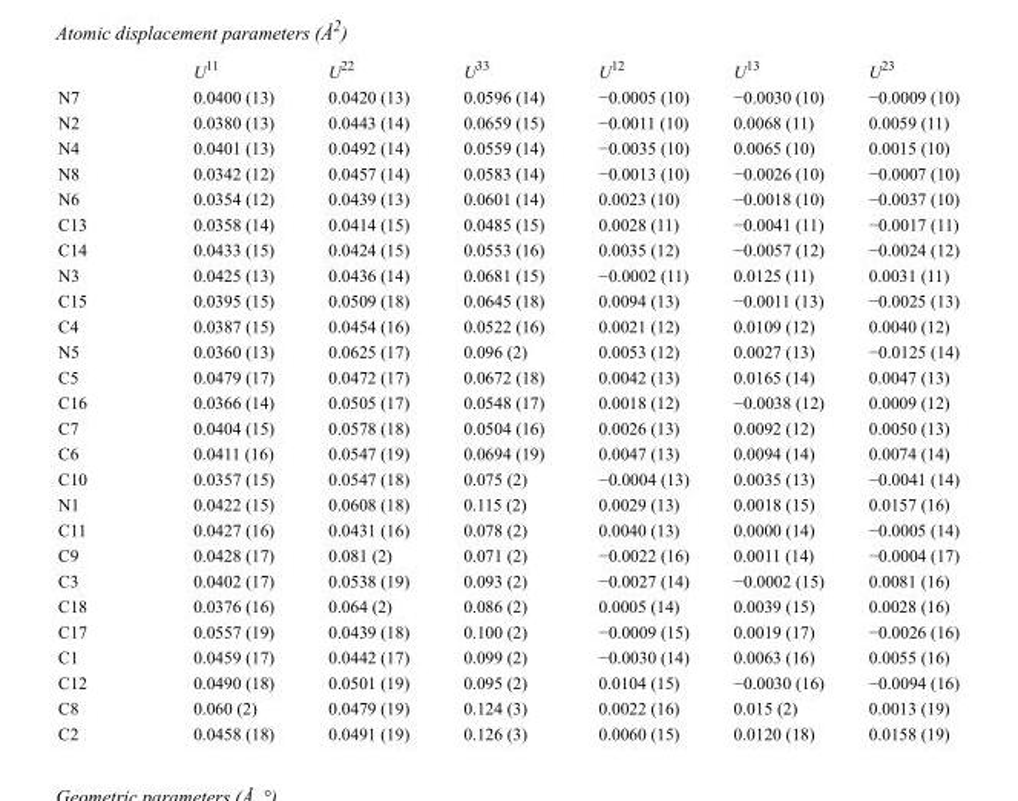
<table><thead><tr><td></td><td>U<sup>11</sup></td><td>U<sup>22</sup></td><td>U<sup>33</sup></td><td>U<sup>12</sup></td><td>U<sup>13</sup></td><td>U<sup>23</sup></td></tr></thead><tbody><tr><td>N7</td><td>0.0400 (13)</td><td>0.0420 (13)</td><td>0.0596 (14)</td><td>−0.0005 (10)</td><td>−0.0030 (10)</td><td>−0.0009 (10)</td></tr><tr><td>N2</td><td>0.0380 (13)</td><td>0.0443 (14)</td><td>0.0659 (15)</td><td>−0.0011 (10)</td><td>0.0068 (11)</td><td>0.0059 (11)</td></tr><tr><td>N4</td><td>0.0401 (13)</td><td>0.0492 (14)</td><td>0.0559 (14)</td><td>−0.0035 (10)</td><td>0.0065 (10)</td><td>0.0015 (10)</td></tr><tr><td>N8</td><td>0.0342 (12)</td><td>0.0457 (14)</td><td>0.0583 (14)</td><td>−0.0013 (10)</td><td>−0.0026 (10)</td><td>−0.0007 (10)</td></tr><tr><td>N6</td><td>0.0354 (12)</td><td>0.0439 (13)</td><td>0.0601 (14)</td><td>0.0023 (10)</td><td>−0.0018 (10)</td><td>−0.0037 (10)</td></tr><tr><td>C13</td><td>0.0358 (14)</td><td>0.0414 (15)</td><td>0.0485 (15)</td><td>0.0028 (11)</td><td>−0.0041 (11)</td><td>−0.0017 (11)</td></tr><tr><td>C14</td><td>0.0433 (15)</td><td>0.0424 (15)</td><td>0.0553 (16)</td><td>0.0035 (12)</td><td>−0.0057 (12)</td><td>−0.0024 (12)</td></tr><tr><td>N3</td><td>0.0425 (13)</td><td>0.0436 (14)</td><td>0.0681 (15)</td><td>−0.0002 (11)</td><td>0.0125 (11)</td><td>0.0031 (11)</td></tr><tr><td>C15</td><td>0.0395 (15)</td><td>0.0509 (18)</td><td>0.0645 (18)</td><td>0.0094 (13)</td><td>−0.0011 (13)</td><td>−0.0025 (13)</td></tr><tr><td>C4</td><td>0.0387 (15)</td><td>0.0454 (16)</td><td>0.0522 (16)</td><td>0.0021 (12)</td><td>0.0109 (12)</td><td>0.0040 (12)</td></tr><tr><td>N5</td><td>0.0360 (13)</td><td>0.0625 (17)</td><td>0.096 (2)</td><td>0.0053 (12)</td><td>0.0027 (13)</td><td>−0.0125 (14)</td></tr><tr><td>C5</td><td>0.0479 (17)</td><td>0.0472 (17)</td><td>0.0672 (18)</td><td>0.0042 (13)</td><td>0.0165 (14)</td><td>0.0047 (13)</td></tr><tr><td>C16</td><td>0.0366 (14)</td><td>0.0505 (17)</td><td>0.0548 (17)</td><td>0.0018 (12)</td><td>−0.0038 (12)</td><td>0.0009 (12)</td></tr><tr><td>C7</td><td>0.0404 (15)</td><td>0.0578 (18)</td><td>0.0504 (16)</td><td>0.0026 (13)</td><td>0.0092 (12)</td><td>0.0050 (13)</td></tr><tr><td>C6</td><td>0.0411 (16)</td><td>0.0547 (19)</td><td>0.0694 (19)</td><td>0.0047 (13)</td><td>0.0094 (14)</td><td>0.0074 (14)</td></tr><tr><td>C10</td><td>0.0357 (15)</td><td>0.0547 (18)</td><td>0.075 (2)</td><td>−0.0004 (13)</td><td>0.0035 (13)</td><td>−0.0041 (14)</td></tr><tr><td>N1</td><td>0.0422 (15)</td><td>0.0608 (18)</td><td>0.115 (2)</td><td>0.0029 (13)</td><td>0.0018 (15)</td><td>0.0157 (16)</td></tr><tr><td>C11</td><td>0.0427 (16)</td><td>0.0431 (16)</td><td>0.078 (2)</td><td>0.0040 (13)</td><td>0.0000 (14)</td><td>−0.0005 (14)</td></tr><tr><td>C9</td><td>0.0428 (17)</td><td>0.081 (2)</td><td>0.071 (2)</td><td>−0.0022 (16)</td><td>0.0011 (14)</td><td>−0.0004 (17)</td></tr><tr><td>C3</td><td>0.0402 (17)</td><td>0.0538 (19)</td><td>0.093 (2)</td><td>−0.0027 (14)</td><td>−0.0002 (15)</td><td>0.0081 (16)</td></tr><tr><td>C18</td><td>0.0376 (16)</td><td>0.064 (2)</td><td>0.086 (2)</td><td>0.0005 (14)</td><td>0.0039 (15)</td><td>0.0028 (16)</td></tr><tr><td>C17</td><td>0.0557 (19)</td><td>0.0439 (18)</td><td>0.100 (2)</td><td>−0.0009 (15)</td><td>0.0019 (17)</td><td>−0.0026 (16)</td></tr><tr><td>C1</td><td>0.0459 (17)</td><td>0.0442 (17)</td><td>0.099 (2)</td><td>−0.0030 (14)</td><td>0.0063 (16)</td><td>0.0055 (16)</td></tr><tr><td>C12</td><td>0.0490 (18)</td><td>0.0501 (19)</td><td>0.095 (2)</td><td>0.0104 (15)</td><td>−0.0030 (16)</td><td>−0.0094 (16)</td></tr><tr><td>C8</td><td>0.060 (2)</td><td>0.0479 (19)</td><td>0.124 (3)</td><td>0.0022 (16)</td><td>0.015 (2)</td><td>0.0013 (19)</td></tr><tr><td>C2</td><td>0.0458 (18)</td><td>0.0491 (19)</td><td>0.126 (3)</td><td>0.0060 (15)</td><td>0.0120 (18)</td><td>0.0158 (19)</td></tr></tbody></table>